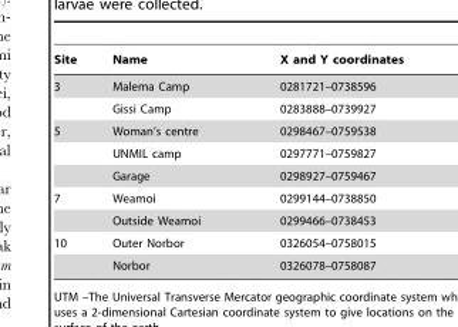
<table><thead><tr><td>Site</td><td>Name</td><td>X and Y coordinates</td></tr></thead><tbody><tr><td rowspan="2">3</td><td>Malema Camp</td><td>0281721–0738596</td></tr><tr><td>Gissi Camp</td><td>0283888–0739927</td></tr><tr><td rowspan="3">5</td><td>Woman’s centre</td><td>0298467–0759538</td></tr><tr><td>UNMIL camp</td><td>0297771–0759827</td></tr><tr><td>Garage</td><td>0298927–0759467</td></tr><tr><td rowspan="2">7</td><td>Weamoi</td><td>0299144–0738850</td></tr><tr><td>Outside Weamoi</td><td>0299466–0738453</td></tr><tr><td rowspan="2">10</td><td>Outer Norbor</td><td>0326054–0758015</td></tr><tr><td>Norbor</td><td>0326078–0758087</td></tr></tbody></table>